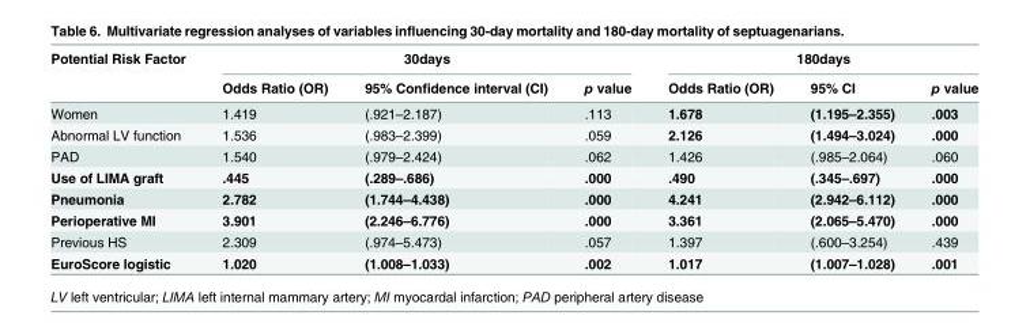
<table><thead><tr><td rowspan="2">Potential Risk Factor</td><td colspan="3">30days</td><td colspan="3">180days</td></tr><tr><td>Odds Ratio (OR)</td><td>95% Confidence interval (CI)</td><td>p value</td><td>Odds Ratio (OR)</td><td>95% CI</td><td>p value</td></tr></thead><tbody><tr><td>Women</td><td>1.419</td><td>(.921–2.187)</td><td>.113</td><td>1.678</td><td>(1.195–2.355)</td><td>.003</td></tr><tr><td>Abnormal LV function</td><td>1.536</td><td>(.983–2.399)</td><td>.059</td><td>2.126</td><td>(1.494–3.024)</td><td>.000</td></tr><tr><td>PAD</td><td>1.540</td><td>(.979–2.424)</td><td>.062</td><td>1.426</td><td>(.985–2.064)</td><td>.060</td></tr><tr><td>Use of LIMA graft</td><td>.445</td><td>(.289–.686)</td><td>.000</td><td>.490</td><td>(.345–.697)</td><td>.000</td></tr><tr><td>Pneumonia</td><td>2.782</td><td>(1.744–4.438)</td><td>.000</td><td>4.241</td><td>(2.942–6.112)</td><td>.000</td></tr><tr><td>Perioperative MI</td><td>3.901</td><td>(2.246–6.776)</td><td>.000</td><td>3.361</td><td>(2.065–5.470)</td><td>.000</td></tr><tr><td>Previous HS</td><td>2.309</td><td>(.974–5.473)</td><td>.057</td><td>1.397</td><td>(.600–3.254)</td><td>.439</td></tr><tr><td>EuroScore logistic</td><td>1.020</td><td>(1.008–1.033)</td><td>.002</td><td>1.017</td><td>(1.007–1.028)</td><td>.001</td></tr></tbody></table>